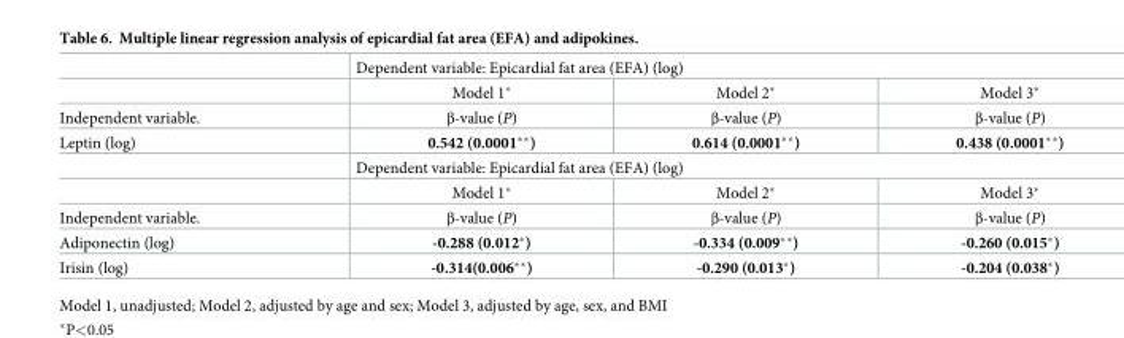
<table><thead><tr><td rowspan="2"></td><td colspan="3">Dependent variable: Epicardial fat area (EFA) (log)</td></tr><tr><td>Model 1*</td><td>Model 2*</td><td>Model 3*</td></tr></thead><tbody><tr><td>Independent variable.</td><td>β-value (P)</td><td>β-value (P)</td><td>β-value (P)</td></tr><tr><td rowspan="3">Leptin (log)</td><td>0.542 (0.0001**)</td><td>0.614 (0.0001**)</td><td>0.438 (0.0001**)</td></tr><tr><td colspan="3">Dependent variable: Epicardial fat area (EFA) (log)</td></tr><tr><td>Model 1*</td><td>Model 2*</td><td>Model 3*</td></tr><tr><td>Independent variable.</td><td>β-value (P)</td><td>β-value (P)</td><td>β-value (P)</td></tr><tr><td>Adiponectin (log)</td><td>-0.288 (0.012*)</td><td>-0.334 (0.009**)</td><td>-0.260 (0.015*)</td></tr><tr><td>Irisin (log)</td><td>-0.314(0.006**)</td><td>-0.290 (0.013*)</td><td>-0.204 (0.038*)</td></tr></tbody></table>